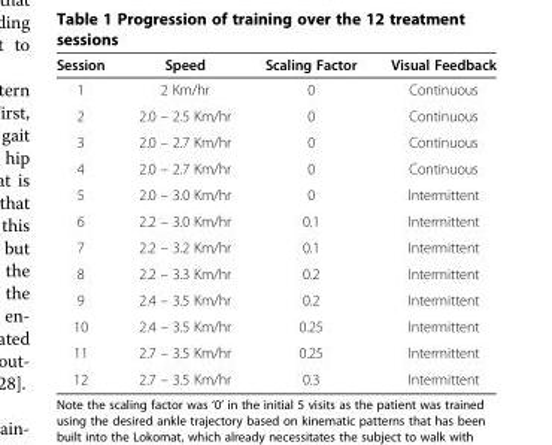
<table><thead><tr><td>Session</td><td>Speed</td><td>Scaling Factor</td><td>Visual Feedback</td></tr></thead><tbody><tr><td>1</td><td>2 Km/hr</td><td>0</td><td>Continuous</td></tr><tr><td>2</td><td>2.0 – 2.5 Km/hr</td><td>0</td><td>Continuous</td></tr><tr><td>3</td><td>2.0 – 2.7 Km/hr</td><td>0</td><td>Continuous</td></tr><tr><td>4</td><td>2.0 – 2.7 Km/hr</td><td>0</td><td>Continuous</td></tr><tr><td>5</td><td>2.0 – 3.0 Km/hr</td><td>0</td><td>Intermittent</td></tr><tr><td>6</td><td>2.2 – 3.0 Km/hr</td><td>0.1</td><td>Intermittent</td></tr><tr><td>7</td><td>2.2 – 3.2 Km/hr</td><td>0.1</td><td>Intermittent</td></tr><tr><td>8</td><td>2.2 – 3.3 Km/hr</td><td>0.2</td><td>Intermittent</td></tr><tr><td>9</td><td>2.4 – 3.5 Km/hr</td><td>0.2</td><td>Intermittent</td></tr><tr><td>10</td><td>2.4 – 3.5 Km/hr</td><td>0.25</td><td>Intermittent</td></tr><tr><td>11</td><td>2.7 – 3.5 Km/hr</td><td>0.25</td><td>Intermittent</td></tr><tr><td>12</td><td>2.7 – 3.5 Km/hr</td><td>0.3</td><td>Intermittent</td></tr></tbody></table>